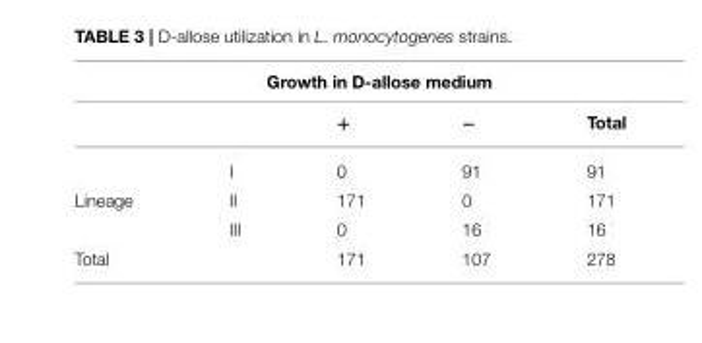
<table><thead><tr><td colspan="5">Growth in D-allose medium</td></tr><tr><td></td><td></td><td>+</td><td>−</td><td>Total</td></tr></thead><tbody><tr><td></td><td>I</td><td>0</td><td>91</td><td>91</td></tr><tr><td rowspan="2">Lineage</td><td>II</td><td>171</td><td>0</td><td>171</td></tr><tr><td>III</td><td>0</td><td>16</td><td>16</td></tr><tr><td>Total</td><td></td><td>171</td><td>107</td><td>278</td></tr></tbody></table>